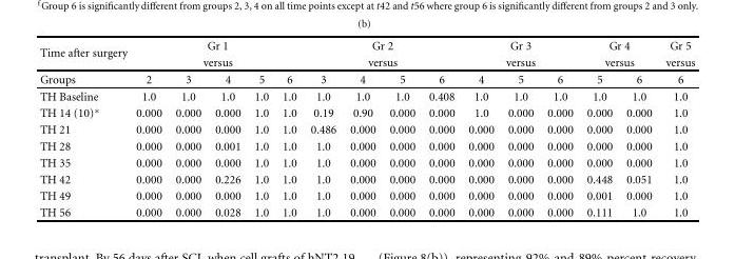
<table><thead><tr><td rowspan="3">Time after surgery Groups</td><td rowspan="2" colspan="5">Gr 1 versus</td><td rowspan="2" colspan="4">Gr 2 versus</td><td rowspan="2" colspan="3">Gr 3 versus</td><td rowspan="2" colspan="2">Gr 4 versus</td><td rowspan="3">Gr 5 versus 6</td></tr><tr></tr><tr><td>2</td><td>3</td><td>4</td><td>5</td><td>6</td><td>3</td><td>4</td><td>5</td><td>6</td><td>4</td><td>5</td><td>6</td><td>5</td><td>6</td></tr></thead><tbody><tr><td>TH Baseline</td><td>1.0</td><td>1.0</td><td>1.0</td><td>1.0</td><td>1.0</td><td>1.0</td><td>1.0</td><td>1.0</td><td>0.408</td><td>1.0</td><td>1.0</td><td>1.0</td><td>1.0</td><td>1.0</td><td>1.0</td></tr><tr><td>TH 14 (10)∗</td><td>0.000</td><td>0.000</td><td>0.000</td><td>1.0</td><td>1.0</td><td>0.19</td><td>0.90</td><td>0.000</td><td>0.000</td><td>1.0</td><td>0.000</td><td>0.000</td><td>0.000</td><td>0.000</td><td>1.0</td></tr><tr><td>TH 21</td><td>0.000</td><td>0.000</td><td>0.000</td><td>1.0</td><td>1.0</td><td>0.486</td><td>0.000</td><td>0.000</td><td>0.000</td><td>0.000</td><td>0.000</td><td>0.000</td><td>0.000</td><td>0.000</td><td>1.0</td></tr><tr><td>TH 28</td><td>0.000</td><td>0.000</td><td>0.001</td><td>1.0</td><td>1.0</td><td>1.0</td><td>0.000</td><td>0.000</td><td>0.000</td><td>0.000</td><td>0.000</td><td>0.000</td><td>0.000</td><td>0.000</td><td>1.0</td></tr><tr><td>TH 35</td><td>0.000</td><td>0.000</td><td>0.000</td><td>1.0</td><td>1.0</td><td>1.0</td><td>0.000</td><td>0.000</td><td>0.000</td><td>0.000</td><td>0.000</td><td>0.000</td><td>0.000</td><td>0.000</td><td>1.0</td></tr><tr><td>TH 42</td><td>0.000</td><td>0.000</td><td>0.226</td><td>1.0</td><td>1.0</td><td>1.0</td><td>0.000</td><td>0.000</td><td>0.000</td><td>0.000</td><td>0.000</td><td>0.000</td><td>0.448</td><td>0.051</td><td>1.0</td></tr><tr><td>TH 49</td><td>0.000</td><td>0.000</td><td>0.000</td><td>1.0</td><td>1.0</td><td>1.0</td><td>0.000</td><td>0.000</td><td>0.000</td><td>0.000</td><td>0.000</td><td>0.000</td><td>0.001</td><td>0.000</td><td>1.0</td></tr><tr><td>TH 56</td><td>0.000</td><td>0.000</td><td>0.028</td><td>1.0</td><td>1.0</td><td>1.0</td><td>0.000</td><td>0.000</td><td>0.000</td><td>0.000</td><td>0.000</td><td>0.000</td><td>0.111</td><td>1.0</td><td>1.0</td></tr></tbody></table>